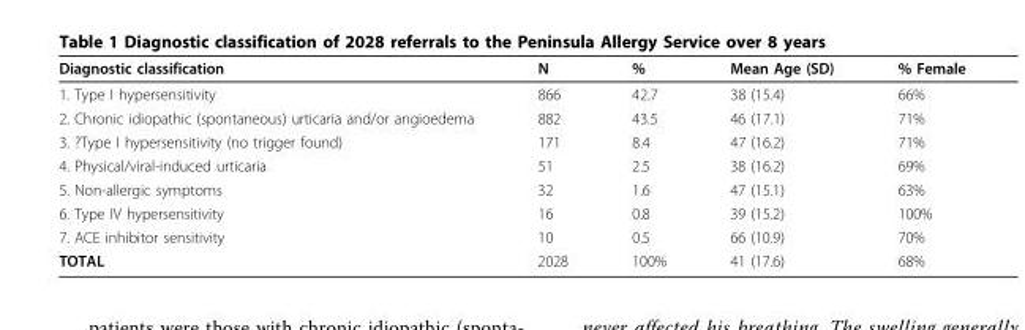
<table><thead><tr><td>Diagnostic classification</td><td>N</td><td>%</td><td>Mean Age (SD)</td><td>% Female</td></tr></thead><tbody><tr><td>1. Type I hypersensitivity</td><td>866</td><td>42.7</td><td>38 (15.4)</td><td>66%</td></tr><tr><td>2. Chronic idiopathic (spontaneous) urticaria and/or angioedema</td><td>882</td><td>43.5</td><td>46 (17.1)</td><td>71%</td></tr><tr><td>3. ?Type I hypersensitivity (no trigger found)</td><td>171</td><td>8.4</td><td>47 (16.2)</td><td>71%</td></tr><tr><td>4. Physical/viral-induced urticaria</td><td>51</td><td>2.5</td><td>38 (16.2)</td><td>69%</td></tr><tr><td>5. Non-allergic symptoms</td><td>32</td><td>1.6</td><td>47 (15.1)</td><td>63%</td></tr><tr><td>6. Type IV hypersensitivity</td><td>16</td><td>0.8</td><td>39 (15.2)</td><td>100%</td></tr><tr><td>7. ACE inhibitor sensitivity</td><td>10</td><td>0.5</td><td>66 (10.9)</td><td>70%</td></tr><tr><td>TOTAL</td><td>2028</td><td>100%</td><td>41 (17.6)</td><td>68%</td></tr></tbody></table>